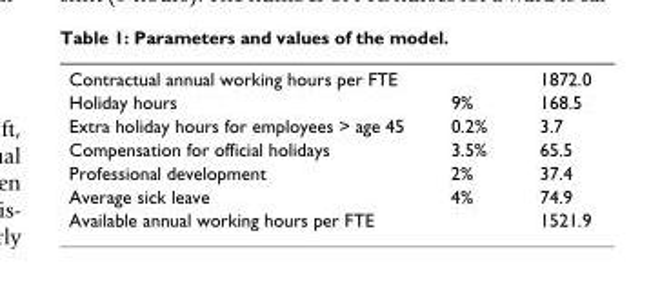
<table><tbody><tr><td>Contractual annual working hours per FTE</td><td></td><td>1872.0</td></tr><tr><td>Holiday hours</td><td>9%</td><td>168.5</td></tr><tr><td>Extra holiday hours for employees &gt; age 45</td><td>0.2%</td><td>3.7</td></tr><tr><td>Compensation for official holidays</td><td>3.5%</td><td>65.5</td></tr><tr><td>Professional development</td><td>2%</td><td>37.4</td></tr><tr><td>Average sick leave</td><td>4%</td><td>74.9</td></tr><tr><td>Available annual working hours per FTE</td><td></td><td>1521.9</td></tr></tbody></table>